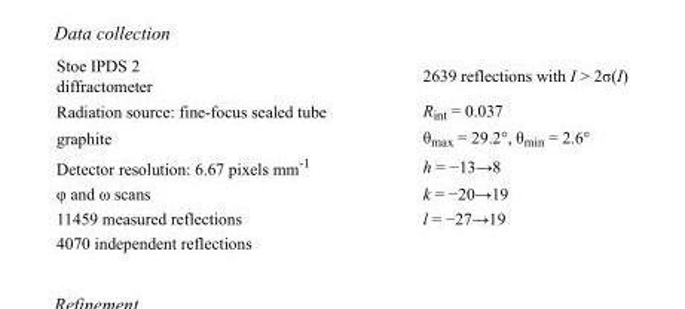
<table><tbody><tr><td>Stoe IPDS 2 diffractometer</td><td>2639 reflections with I &gt; 2σ(I)</td></tr><tr><td>Radiation source: fine-focus sealed tube</td><td>R<sub>int</sub> = 0.037</td></tr><tr><td>graphite</td><td>θ<sub>max</sub> = 29.2°, θ<sub>min</sub> = 2.6°</td></tr><tr><td>Detector resolution: 6.67 pixels mm<sup>-1</sup></td><td>h = −13→8</td></tr><tr><td>φ and ω scans</td><td>k = −20→19</td></tr><tr><td>11459 measured reflections</td><td>l = −27→19</td></tr><tr><td>4070 independent reflections</td><td></td></tr></tbody></table>